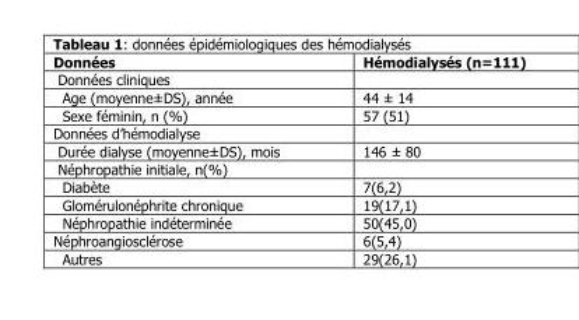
<table><thead><tr><td>Données</td><td>Hémodialysés (n=111)</td></tr></thead><tbody><tr><td colspan="2">Données cliniques</td></tr><tr><td>Age (moyenne±DS), année</td><td>44 ± 14</td></tr><tr><td>Sexe féminin, n (%)</td><td>57 (51)</td></tr><tr><td colspan="2">Données d’hémodialyse</td></tr><tr><td>Durée dialyse (moyenne±DS), mois</td><td>146 ± 80</td></tr><tr><td colspan="2">Néphropathie initiale, n(%)</td></tr><tr><td>Diabète</td><td>7(6,2)</td></tr><tr><td>Glomérulonéphrite chronique</td><td>19(17,1)</td></tr><tr><td>Néphropathie indéterminée</td><td>50(45,0)</td></tr><tr><td>Néphroangiosclérose</td><td>6(5,4)</td></tr><tr><td>Autres</td><td>29(26,1)</td></tr></tbody></table>